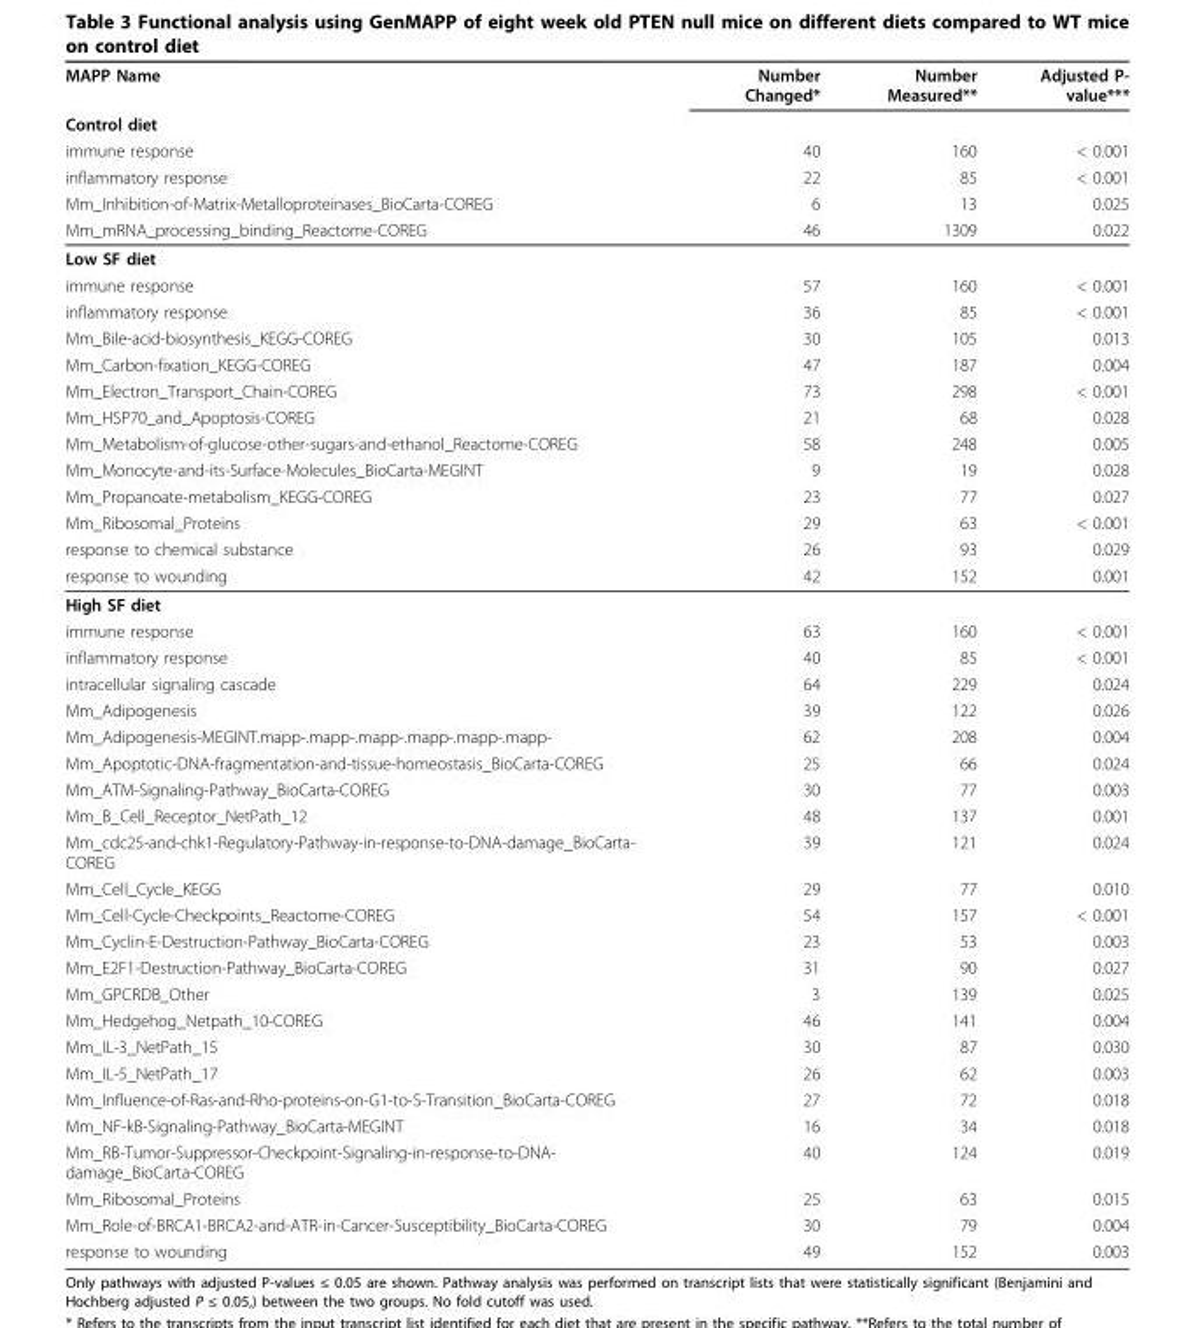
<table><thead><tr><td rowspan="6">MAPP Name Control diet immune response inflammatory response Mm_Inhibition-of-Matrix-Metalloproteinases_BioCarta-COREG Mm_mRNA_processing_binding_Reactome-COREG</td><td rowspan="6">Number Changed* 40 22 6 46</td><td rowspan="6">Number Measured** 160 85 13 1309</td><td rowspan="6">Adjusted P- value*** &lt; 0.001 &lt; 0.001 0.025 0.022</td></tr><tr></tr><tr></tr><tr></tr><tr></tr><tr></tr></thead><tbody><tr><td colspan="4">Low SF diet</td></tr><tr><td>immune response</td><td>57</td><td>160</td><td>&lt; 0.001</td></tr><tr><td>inflammatory response</td><td>36</td><td>85</td><td>&lt; 0.001</td></tr><tr><td>Mm_Bile-acid-biosynthesis_KEGG-COREG</td><td>30</td><td>105</td><td>0.013</td></tr><tr><td>Mm_Carbon-fixation_KEGG-COREG</td><td>47</td><td>187</td><td>0.004</td></tr><tr><td>Mm_Electron_Transport_Chain-COREG</td><td>73</td><td>298</td><td>&lt; 0.001</td></tr><tr><td>Mm_HSP70_and_Apoptosis-COREG</td><td>21</td><td>68</td><td>0.028</td></tr><tr><td>Mm_Metabolism-of-glucose-other-sugars-and-ethanol_Reactome-COREG</td><td>58</td><td>248</td><td>0.005</td></tr><tr><td>Mm_Monocyte-and-its-Surface-Molecules_BioCarta-MEGINT</td><td>9</td><td>19</td><td>0.028</td></tr><tr><td>Mm_Propanoate-metabolism_KEGG-COREG</td><td>23</td><td>77</td><td>0.027</td></tr><tr><td>Mm_Ribosomal_Proteins</td><td>29</td><td>63</td><td>&lt; 0.001</td></tr><tr><td>response to chemical substance</td><td>26</td><td>93</td><td>0.029</td></tr><tr><td>response to wounding</td><td>42</td><td>152</td><td>0.001</td></tr><tr><td colspan="4">High SF diet</td></tr><tr><td>immune response</td><td>63</td><td>160</td><td>&lt; 0.001</td></tr><tr><td>inflammatory response</td><td>40</td><td>85</td><td>&lt; 0.001</td></tr><tr><td>intracellular signaling cascade</td><td>64</td><td>229</td><td>0.024</td></tr><tr><td>Mm_Adipogenesis</td><td>39</td><td>122</td><td>0.026</td></tr><tr><td>Mm_Adipogenesis-MEGINT.mapp-.mapp-.mapp-.mapp-.mapp-.mapp-</td><td>62</td><td>208</td><td>0.004</td></tr><tr><td>Mm_Apoptotic-DNA-fragmentation-and-tissue-homeostasis_BioCarta-COREG</td><td>25</td><td>66</td><td>0.024</td></tr><tr><td>Mm_ATM-Signaling-Pathway_BioCarta-COREG</td><td>30</td><td>77</td><td>0.003</td></tr><tr><td>Mm_B_Cell_Receptor_NetPath_12</td><td>48</td><td>137</td><td>0.001</td></tr><tr><td>Mm_cdc25-and-chk1-Regulatory-Pathway-in-response-to-DNA-damage_BioCarta- COREG</td><td>39</td><td>121</td><td>0.024</td></tr><tr><td>Mm_Cell_Cycle_KEGG</td><td>29</td><td>77</td><td>0.010</td></tr><tr><td>Mm_Cell-Cycle-Checkpoints_Reactome-COREG</td><td>54</td><td>157</td><td>&lt; 0.001</td></tr><tr><td>Mm_Cyclin-E-Destruction-Pathway_BioCarta-COREG</td><td>23</td><td>53</td><td>0.003</td></tr><tr><td>Mm_E2F1-Destruction-Pathway_BioCarta-COREG</td><td>31</td><td>90</td><td>0.027</td></tr><tr><td>Mm_GPCRDB_Other</td><td>3</td><td>139</td><td>0.025</td></tr><tr><td>Mm_Hedgehog_Netpath_10-COREG</td><td>46</td><td>141</td><td>0.004</td></tr><tr><td>Mm_IL-3_NetPath_15</td><td>30</td><td>87</td><td>0.030</td></tr><tr><td>Mm_IL-5_NetPath_17</td><td>26</td><td>62</td><td>0.003</td></tr><tr><td>Mm_Influence-of-Ras-and-Rho-proteins-on-G1-to-S-Transition_BioCarta-COREG</td><td>27</td><td>72</td><td>0.018</td></tr><tr><td>Mm_NF-kB-Signaling-Pathway_BioCarta-MEGINT</td><td>16</td><td>34</td><td>0.018</td></tr><tr><td>Mm_RB-Tumor-Suppressor-Checkpoint-Signaling-in-response-to-DNA- damage_BioCarta-COREG</td><td>40</td><td>124</td><td>0.019</td></tr><tr><td>Mm_Ribosomal_Proteins</td><td>25</td><td>63</td><td>0.015</td></tr><tr><td>Mm_Role-of-BRCA1-BRCA2-and-ATR-in-Cancer-Susceptibility_BioCarta-COREG</td><td>30</td><td>79</td><td>0.004</td></tr><tr><td>response to wounding</td><td>49</td><td>152</td><td>0.003</td></tr></tbody></table>